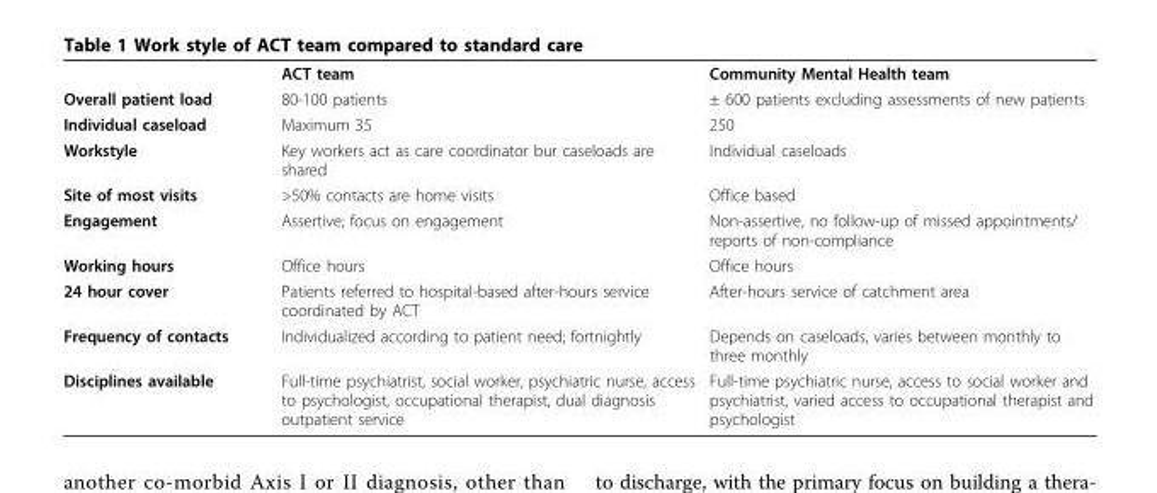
<table><thead><tr><td></td><td>ACT team</td><td>Community Mental Health team</td></tr></thead><tbody><tr><td>Overall patient load</td><td>80-100 patients</td><td>± 600 patients excluding assessments of new patients</td></tr><tr><td>Individual caseload</td><td>Maximum 35</td><td>250</td></tr><tr><td>Workstyle</td><td>Key workers act as care coordinator bur caseloads are shared</td><td>Individual caseloads</td></tr><tr><td>Site of most visits</td><td>&gt;50% contacts are home visits</td><td>Office based</td></tr><tr><td>Engagement</td><td>Assertive; focus on engagement</td><td>Non-assertive, no follow-up of missed appointments/ reports of non-compliance</td></tr><tr><td>Working hours</td><td>Office hours</td><td>Office hours</td></tr><tr><td>24 hour cover</td><td>Patients referred to hospital-based after-hours service coordinated by ACT</td><td>After-hours service of catchment area</td></tr><tr><td>Frequency of contacts</td><td>Individualized according to patient need; fortnightly</td><td>Depends on caseloads, varies between monthly to three monthly</td></tr><tr><td>Disciplines available</td><td>Full-time psychiatrist, social worker, psychiatric nurse, access to psychologist, occupational therapist, dual diagnosis outpatient service</td><td>Full-time psychiatric nurse, access to social worker and psychiatrist, varied access to occupational therapist and psychologist</td></tr></tbody></table>